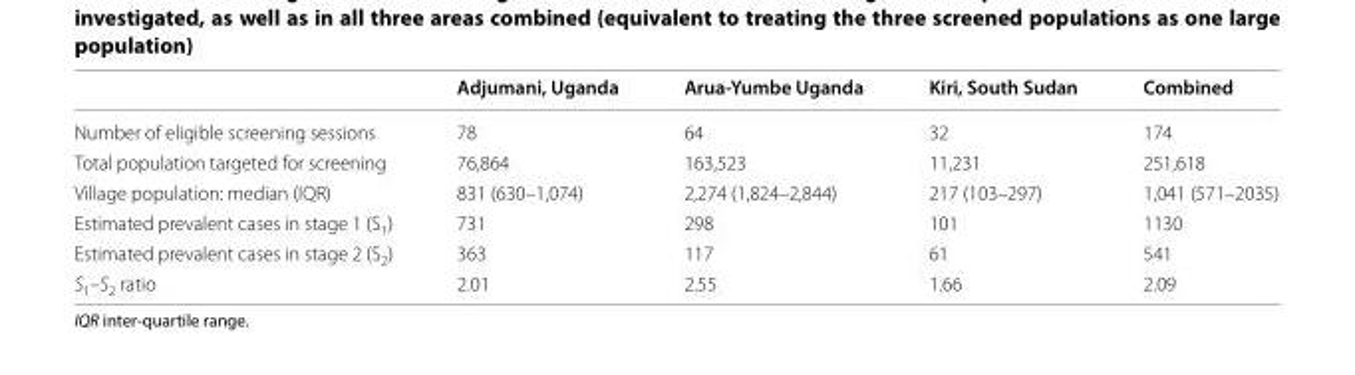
<table><thead><tr><td></td><td>Adjumani, Uganda</td><td>Arua-Yumbe Uganda</td><td>Kiri, South Sudan</td><td>Combined</td></tr></thead><tbody><tr><td>Number of eligible screening sessions</td><td>78</td><td>64</td><td>32</td><td>174</td></tr><tr><td>Total population targeted for screening</td><td>76,864</td><td>163,523</td><td>11,231</td><td>251,618</td></tr><tr><td>Village population: median (IQR)</td><td>831 (630–1,074)</td><td>2,274 (1,824–2,844)</td><td>217 (103–297)</td><td>1,041 (571–2035)</td></tr><tr><td>Estimated prevalent cases in stage 1 (S<sub>1</sub>)</td><td>731</td><td>298</td><td>101</td><td>1130</td></tr><tr><td>Estimated prevalent cases in stage 2 (S<sub>2</sub>)</td><td>363</td><td>117</td><td>61</td><td>541</td></tr><tr><td>S<sub>1</sub>–S<sub>2</sub> ratio</td><td>2.01</td><td>2.55</td><td>1.66</td><td>2.09</td></tr></tbody></table>